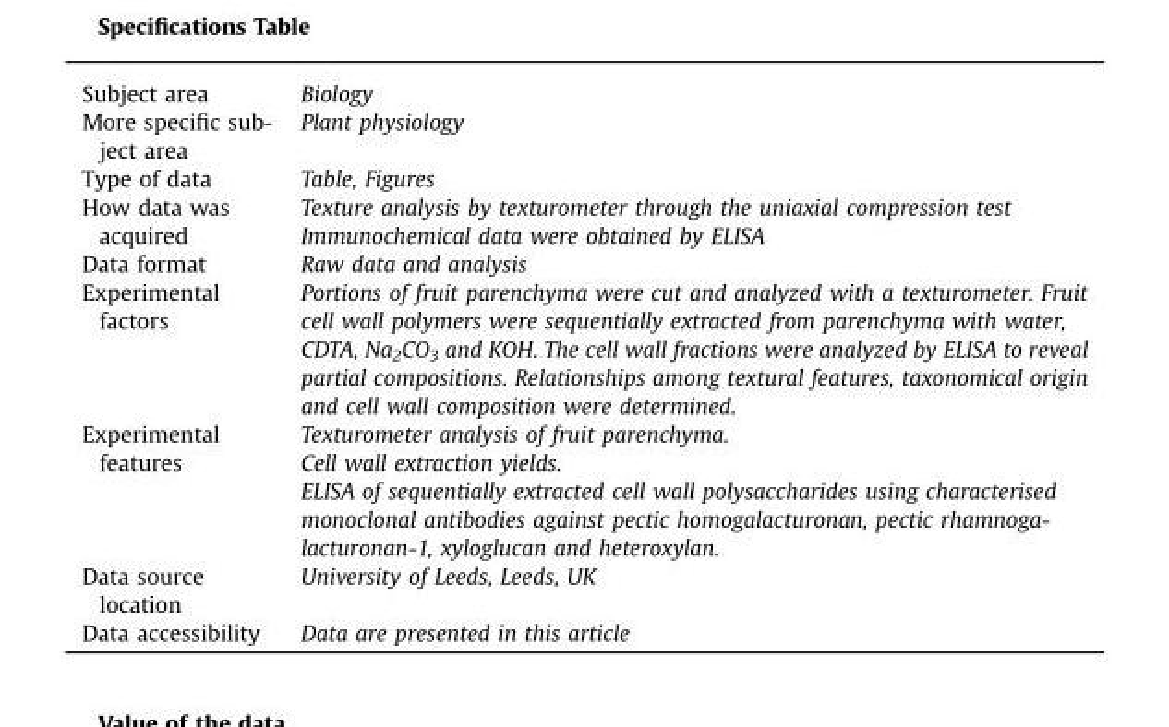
<table><tbody><tr><td>Subject area</td><td>Biology</td></tr><tr><td>More specific sub- ject area</td><td>Plant physiology</td></tr><tr><td>Type of data</td><td>Table, Figures</td></tr><tr><td rowspan="2">How data was acquired</td><td>Texture analysis by texturometer through the uniaxial compression test</td></tr><tr><td>Immunochemical data were obtained by ELISA</td></tr><tr><td>Data format</td><td>Raw data and analysis</td></tr><tr><td>Experimental factors</td><td>Portions of fruit parenchyma were cut and analyzed with a texturometer. Fruit cell wall polymers were sequentially extracted from parenchyma with water, CDTA, Na<sub>2</sub>CO<sub>3</sub> and KOH. The cell wall fractions were analyzed by ELISA to reveal partial compositions. Relationships among textural features, taxonomical origin and cell wall composition were determined.</td></tr><tr><td rowspan="3">Experimental features</td><td>Texturometer analysis of fruit parenchyma.</td></tr><tr><td>Cell wall extraction yields.</td></tr><tr><td>ELISA of sequentially extracted cell wall polysaccharides using characterised monoclonal antibodies against pectic homogalacturonan, pectic rhamnoga- lacturonan-1, xyloglucan and heteroxylan.</td></tr><tr><td>Data source location</td><td>University of Leeds, Leeds, UK</td></tr><tr><td>Data accessibility</td><td>Data are presented in this article</td></tr></tbody></table>